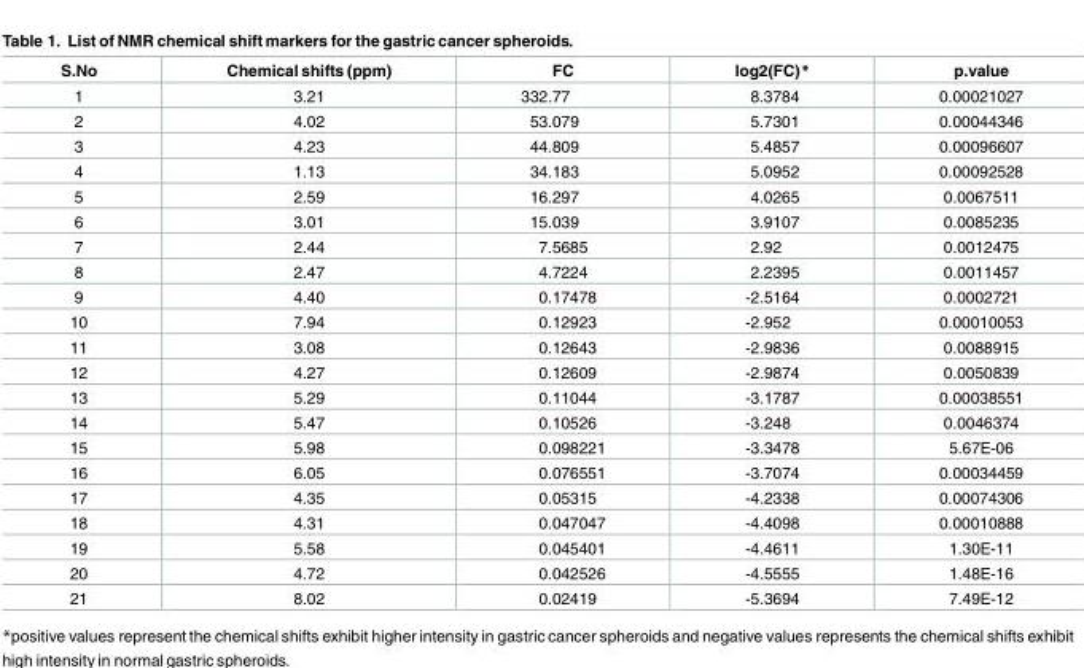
<table><thead><tr><td>S.No</td><td>Chemical shifts (ppm)</td><td>FC</td><td>log2(FC)*</td><td>p.value</td></tr></thead><tbody><tr><td>1</td><td>3.21</td><td>332.77</td><td>8.3784</td><td>0.00021027</td></tr><tr><td>2</td><td>4.02</td><td>53.079</td><td>5.7301</td><td>0.00044346</td></tr><tr><td>3</td><td>4.23</td><td>44.809</td><td>5.4857</td><td>0.00096607</td></tr><tr><td>4</td><td>1.13</td><td>34.183</td><td>5.0952</td><td>0.00092528</td></tr><tr><td>5</td><td>2.59</td><td>16.297</td><td>4.0265</td><td>0.0067511</td></tr><tr><td>6</td><td>3.01</td><td>15.039</td><td>3.9107</td><td>0.0085235</td></tr><tr><td>7</td><td>2.44</td><td>7.5685</td><td>2.92</td><td>0.0012475</td></tr><tr><td>8</td><td>2.47</td><td>4.7224</td><td>2.2395</td><td>0.0011457</td></tr><tr><td>9</td><td>4.40</td><td>0.17478</td><td>-2.5164</td><td>0.0002721</td></tr><tr><td>10</td><td>7.94</td><td>0.12923</td><td>-2.952</td><td>0.00010053</td></tr><tr><td>11</td><td>3.08</td><td>0.12643</td><td>-2.9836</td><td>0.0088915</td></tr><tr><td>12</td><td>4.27</td><td>0.12609</td><td>-2.9874</td><td>0.0050839</td></tr><tr><td>13</td><td>5.29</td><td>0.11044</td><td>-3.1787</td><td>0.00038551</td></tr><tr><td>14</td><td>5.47</td><td>0.10526</td><td>-3.248</td><td>0.0046374</td></tr><tr><td>15</td><td>5.98</td><td>0.098221</td><td>-3.3478</td><td>5.67E-06</td></tr><tr><td>16</td><td>6.05</td><td>0.076551</td><td>-3.7074</td><td>0.00034459</td></tr><tr><td>17</td><td>4.35</td><td>0.05315</td><td>-4.2338</td><td>0.00074306</td></tr><tr><td>18</td><td>4.31</td><td>0.047047</td><td>-4.4098</td><td>0.00010888</td></tr><tr><td>19</td><td>5.58</td><td>0.045401</td><td>-4.4611</td><td>1.30E-11</td></tr><tr><td>20</td><td>4.72</td><td>0.042526</td><td>-4.5555</td><td>1.48E-16</td></tr><tr><td>21</td><td>8.02</td><td>0.02419</td><td>-5.3694</td><td>7.49E-12</td></tr></tbody></table>